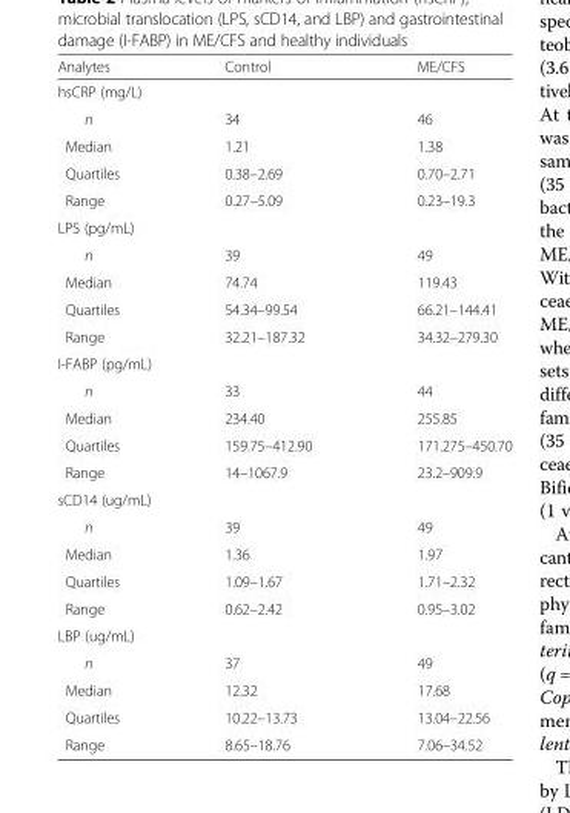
<table><thead><tr><td>Analytes</td><td>Control</td><td>ME/CFS</td></tr></thead><tbody><tr><td colspan="3">hsCRP (mg/L)</td></tr><tr><td>n</td><td>34</td><td>46</td></tr><tr><td>Median</td><td>1.21</td><td>1.38</td></tr><tr><td>Quartiles</td><td>0.38–2.69</td><td>0.70–2.71</td></tr><tr><td>Range</td><td>0.27–5.09</td><td>0.23–19.3</td></tr><tr><td colspan="3">LPS (pg/mL)</td></tr><tr><td>n</td><td>39</td><td>49</td></tr><tr><td>Median</td><td>74.74</td><td>119.43</td></tr><tr><td>Quartiles</td><td>54.34–99.54</td><td>66.21–144.41</td></tr><tr><td>Range</td><td>32.21–187.32</td><td>34.32–279.30</td></tr><tr><td colspan="3">I-FABP (pg/mL)</td></tr><tr><td>n</td><td>33</td><td>44</td></tr><tr><td>Median</td><td>234.40</td><td>255.85</td></tr><tr><td>Quartiles</td><td>159.75–412.90</td><td>171.275–450.70</td></tr><tr><td>Range</td><td>14–1067.9</td><td>23.2–909.9</td></tr><tr><td colspan="3">sCD14 (ug/mL)</td></tr><tr><td>n</td><td>39</td><td>49</td></tr><tr><td>Median</td><td>1.36</td><td>1.97</td></tr><tr><td>Quartiles</td><td>1.09–1.67</td><td>1.71–2.32</td></tr><tr><td>Range</td><td>0.62–2.42</td><td>0.95–3.02</td></tr><tr><td colspan="3">LBP (ug/mL)</td></tr><tr><td>n</td><td>37</td><td>49</td></tr><tr><td>Median</td><td>12.32</td><td>17.68</td></tr><tr><td>Quartiles</td><td>10.22–13.73</td><td>13.04–22.56</td></tr><tr><td>Range</td><td>8.65–18.76</td><td>7.06–34.52</td></tr></tbody></table>